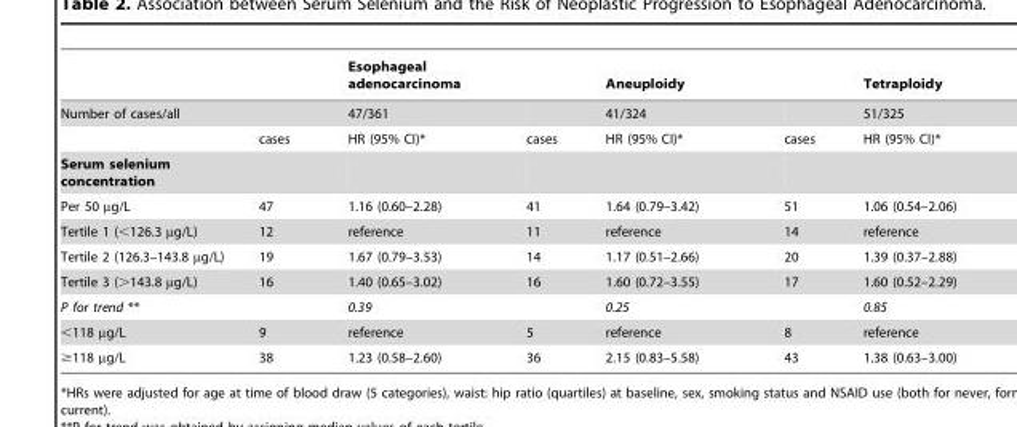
<table><thead><tr><td></td><td></td><td>Esophageal adenocarcinoma</td><td></td><td>Aneuploidy</td><td></td><td>Tetraploidy</td></tr></thead><tbody><tr><td rowspan="2">Number of cases/all</td><td></td><td>47/361</td><td></td><td>41/324</td><td></td><td>51/325</td></tr><tr><td>cases</td><td>HR (95% CI)*</td><td>cases</td><td>HR (95% CI)*</td><td>cases</td><td>HR (95% CI)*</td></tr><tr><td colspan="7">Serum selenium concentration</td></tr><tr><td>Per 50 µg/L</td><td>47</td><td>1.16 (0.60–2.28)</td><td>41</td><td>1.64 (0.79–3.42)</td><td>51</td><td>1.06 (0.54–2.06)</td></tr><tr><td>Tertile 1 (&lt;126.3 µg/L)</td><td>12</td><td>reference</td><td>11</td><td>reference</td><td>14</td><td>reference</td></tr><tr><td>Tertile 2 (126.3–143.8 µg/L)</td><td>19</td><td>1.67 (0.79–3.53)</td><td>14</td><td>1.17 (0.51–2.66)</td><td>20</td><td>1.39 (0.37–2.88)</td></tr><tr><td>Tertile 3 (&gt;143.8 µg/L)</td><td>16</td><td>1.40 (0.65–3.02)</td><td>16</td><td>1.60 (0.72–3.55)</td><td>17</td><td>1.60 (0.52–2.29)</td></tr><tr><td>P for trend **</td><td></td><td>0.39</td><td></td><td>0.25</td><td></td><td>0.85</td></tr><tr><td>&lt;118 µg/L</td><td>9</td><td>reference</td><td>5</td><td>reference</td><td>8</td><td>reference</td></tr><tr><td>≥118 µg/L</td><td>38</td><td>1.23 (0.58–2.60)</td><td>36</td><td>2.15 (0.83–5.58)</td><td>43</td><td>1.38 (0.63–3.00)</td></tr></tbody></table>